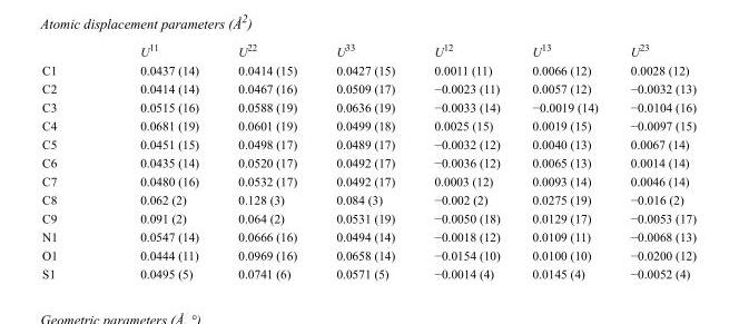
<table><thead><tr><td></td><td>U<sup>11</sup></td><td>U<sup>22</sup></td><td>U<sup>33</sup></td><td>U<sup>12</sup></td><td>U<sup>13</sup></td><td>U<sup>23</sup></td></tr></thead><tbody><tr><td>C1</td><td>0.0437 (14)</td><td>0.0414 (15)</td><td>0.0427 (15)</td><td>0.0011 (11)</td><td>0.0066 (12)</td><td>0.0028 (12)</td></tr><tr><td>C2</td><td>0.0414 (14)</td><td>0.0467 (16)</td><td>0.0509 (17)</td><td>−0.0023 (11)</td><td>0.0057 (12)</td><td>−0.0032 (13)</td></tr><tr><td>C3</td><td>0.0515 (16)</td><td>0.0588 (19)</td><td>0.0636 (19)</td><td>−0.0033 (14)</td><td>−0.0019 (14)</td><td>−0.0104 (16)</td></tr><tr><td>C4</td><td>0.0681 (19)</td><td>0.0601 (19)</td><td>0.0499 (18)</td><td>0.0025 (15)</td><td>0.0019 (15)</td><td>−0.0097 (15)</td></tr><tr><td>C5</td><td>0.0451 (15)</td><td>0.0498 (17)</td><td>0.0489 (17)</td><td>−0.0032 (12)</td><td>0.0040 (13)</td><td>0.0067 (14)</td></tr><tr><td>C6</td><td>0.0435 (14)</td><td>0.0520 (17)</td><td>0.0492 (17)</td><td>−0.0036 (12)</td><td>0.0065 (13)</td><td>0.0014 (14)</td></tr><tr><td>C7</td><td>0.0480 (16)</td><td>0.0532 (17)</td><td>0.0492 (17)</td><td>0.0003 (12)</td><td>0.0093 (14)</td><td>0.0046 (14)</td></tr><tr><td>C8</td><td>0.062 (2)</td><td>0.128 (3)</td><td>0.084 (3)</td><td>−0.002 (2)</td><td>0.0275 (19)</td><td>−0.016 (2)</td></tr><tr><td>C9</td><td>0.091 (2)</td><td>0.064 (2)</td><td>0.0531 (19)</td><td>−0.0050 (18)</td><td>0.0129 (17)</td><td>−0.0053 (17)</td></tr><tr><td>N1</td><td>0.0547 (14)</td><td>0.0666 (16)</td><td>0.0494 (14)</td><td>−0.0018 (12)</td><td>0.0109 (11)</td><td>−0.0068 (13)</td></tr><tr><td>O1</td><td>0.0444 (11)</td><td>0.0969 (16)</td><td>0.0658 (14)</td><td>−0.0154 (10)</td><td>0.0100 (10)</td><td>−0.0200 (12)</td></tr><tr><td>S1</td><td>0.0495 (5)</td><td>0.0741 (6)</td><td>0.0571 (5)</td><td>−0.0014 (4)</td><td>0.0145 (4)</td><td>−0.0052 (4)</td></tr></tbody></table>